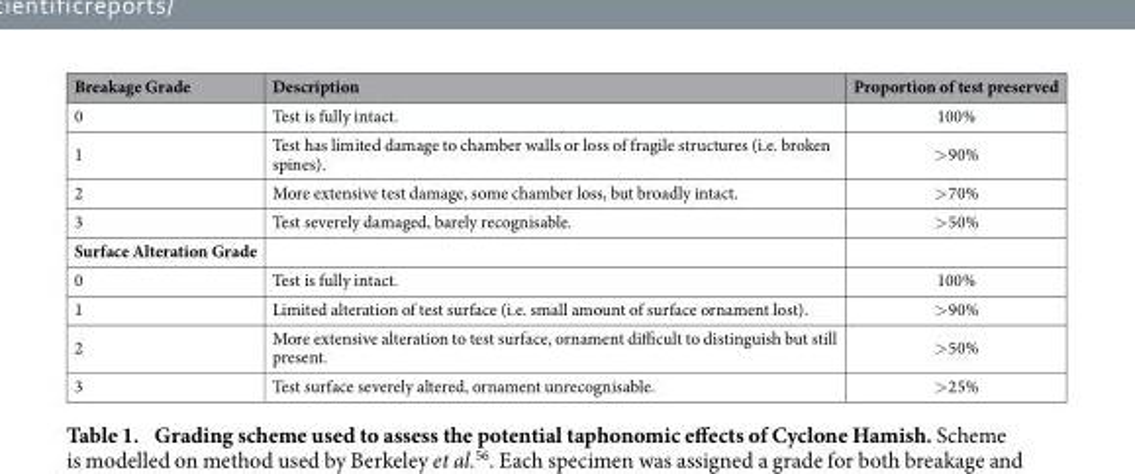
<table><thead><tr><td>Breakage Grade</td><td>Description</td><td>Proportion of test preserved</td></tr></thead><tbody><tr><td>0</td><td>Test is fully intact.</td><td>100%</td></tr><tr><td>1</td><td>Test has limited damage to chamber walls or loss of fragile structures (i.e. broken spines).</td><td>&gt; 90%</td></tr><tr><td>2</td><td>More extensive test damage, some chamber loss, but broadly intact.</td><td>&gt; 70%</td></tr><tr><td>3</td><td>Test severely damaged, barely recognisable.</td><td>&gt; 50%</td></tr><tr><td colspan="3">Surface Alteration Grade</td></tr><tr><td>0</td><td>Test is fully intact.</td><td>100%</td></tr><tr><td>1</td><td>Limited alteration of test surface (i.e. small amount of surface ornament lost).</td><td>&gt; 90%</td></tr><tr><td>2</td><td>More extensive alteration to test surface, ornament difficult to distinguish but still present.</td><td>&gt; 50%</td></tr><tr><td>3</td><td>Test surface severely altered, ornament unrecognisable.</td><td>&gt; 25%</td></tr></tbody></table>